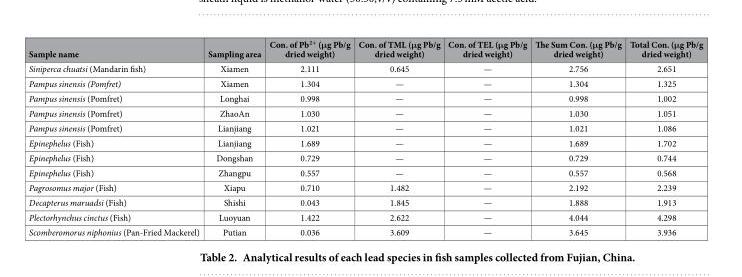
<table><thead><tr><td>Sample name</td><td>Sampling area</td><td>Con. of Pb<sup>2+</sup> (μg Pb/g dried weight)</td><td>Con. of TML (μg Pb/g dried weight)</td><td>Con. of TEL (μg Pb/g dried weight)</td><td>The Sum Con. (μg Pb/g dried weight)</td><td>Total Con. (μg Pb/g dried weight)</td></tr></thead><tbody><tr><td>Siniperca chuatsi (Mandarin fish)</td><td>Xiamen</td><td>2.111</td><td>0.645</td><td>—</td><td>2.756</td><td>2.651</td></tr><tr><td>Pampus sinensis (Pomfret)</td><td>Xiamen</td><td>1.304</td><td>—</td><td>—</td><td>1.304</td><td>1.325</td></tr><tr><td>Pampus sinensis (Pomfret)</td><td>Longhai</td><td>0.998</td><td>—</td><td>—</td><td>0.998</td><td>1.002</td></tr><tr><td>Pampus sinensis (Pomfret)</td><td>ZhaoAn</td><td>1.030</td><td>—</td><td>—</td><td>1.030</td><td>1.051</td></tr><tr><td>Pampus sinensis (Pomfret)</td><td>Lianjiang</td><td>1.021</td><td>—</td><td>—</td><td>1.021</td><td>1.086</td></tr><tr><td>Epinephelus (Fish)</td><td>Lianjiang</td><td>1.689</td><td>—</td><td>—</td><td>1.689</td><td>1.702</td></tr><tr><td>Epinephelus (Fish)</td><td>Dongshan</td><td>0.729</td><td>—</td><td>—</td><td>0.729</td><td>0.744</td></tr><tr><td>Epinephelus (Fish)</td><td>Zhangpu</td><td>0.557</td><td>—</td><td>—</td><td>0.557</td><td>0.568</td></tr><tr><td>Pagrosomus major (Fish)</td><td>Xiapu</td><td>0.710</td><td>1.482</td><td>—</td><td>2.192</td><td>2.239</td></tr><tr><td>Decapterus maruadsi (Fish)</td><td>Shishi</td><td>0.043</td><td>1.845</td><td>—</td><td>1.888</td><td>1.913</td></tr><tr><td>Plectorhynchus cinctus (Fish)</td><td>Luoyuan</td><td>1.422</td><td>2.622</td><td>—</td><td>4.044</td><td>4.298</td></tr><tr><td>Scomberomorus niphonius (Pan-Fried Mackerel)</td><td>Putian</td><td>0.036</td><td>3.609</td><td>—</td><td>3.645</td><td>3.936</td></tr></tbody></table>